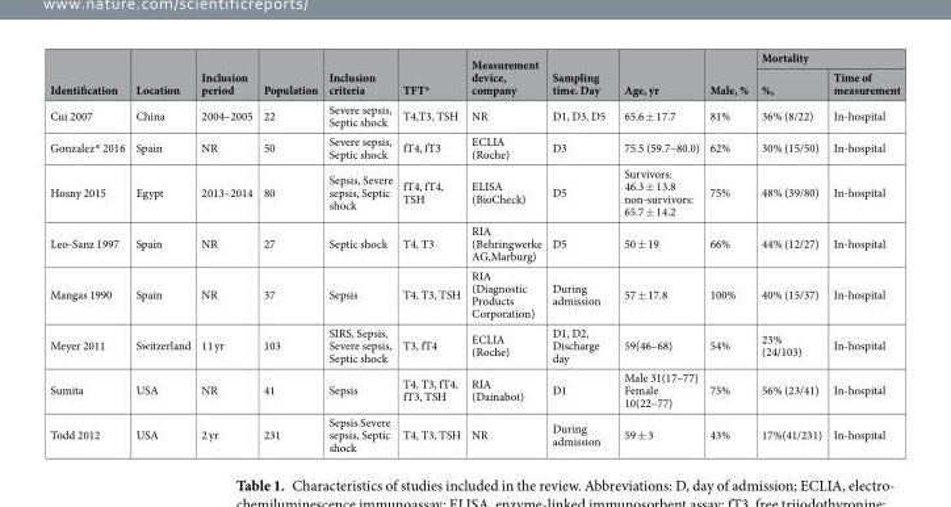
<table><thead><tr><td rowspan="2">Identification</td><td rowspan="2">Location</td><td rowspan="2">Inclusion period</td><td rowspan="2">Population</td><td rowspan="2">Inclusion criteria</td><td rowspan="2">TFT <sup>a</sup></td><td rowspan="2">Measurement device, company</td><td rowspan="2">Sampling time. Day</td><td rowspan="2">Age, yr</td><td rowspan="2">Male, %</td><td colspan="2">Mortality</td></tr><tr><td>%,</td><td>Time of measurement</td></tr></thead><tbody><tr><td>Cui 2007</td><td>China</td><td>2004–2005</td><td>22</td><td>Severe sepsis, Septic shock</td><td>T4,T3, TSH</td><td>NR</td><td>D1, D3, D5</td><td>65.6 ± 17.7</td><td>81%</td><td>36% (8/22)</td><td>In-hospital</td></tr><tr><td>Gonzalez* 2016</td><td>Spain</td><td>NR</td><td>50</td><td>Severe sepsis, Septic shock</td><td>fT4, fT3</td><td>ECLIA (Roche)</td><td>D3</td><td>75.5 (59.7–80.0)</td><td>62%</td><td>30% (15/50)</td><td>In-hospital</td></tr><tr><td>Hosny 2015</td><td>Egypt</td><td>2013–2014</td><td>80</td><td>Sepsis, Severe sepsis, Septic shock</td><td>fT4, fT4, TSH</td><td>ELISA (BioCheck)</td><td>D5</td><td>Survivors: 46.3 ± 13.8 non-survivors: 65.7 ± 14.2</td><td>75%</td><td>48% (39/80)</td><td>In-hospital</td></tr><tr><td>Leo-Sanz 1997</td><td>Spain</td><td>NR</td><td>27</td><td>Septic shock</td><td>T4, T3</td><td>RIA (Behringwerke AG,Marburg)</td><td>D5</td><td>50 ± 19</td><td>66%</td><td>44% (12/27)</td><td>In-hospital</td></tr><tr><td>Mangas 1990</td><td>Spain</td><td>NR</td><td>37</td><td>Sepsis</td><td>T4, T3, TSH</td><td>RIA (Diagnostic Products Corporation)</td><td>During admission</td><td>57 ± 17.8</td><td>100%</td><td>40% (15/37)</td><td>In-hospital</td></tr><tr><td>Meyer 2011</td><td>Switzerland</td><td>11 yr</td><td>103</td><td>SIRS, Sepsis, Severe sepsis, Septic shock</td><td>T3, fT4</td><td>ECLIA (Roche)</td><td>D1, D2, Discharge day</td><td>59(46–68)</td><td>54%</td><td>23% (24/103)</td><td>In-hospital</td></tr><tr><td>Sumita</td><td>USA</td><td>NR</td><td>41</td><td>Sepsis</td><td>T4, T3, fT4, fT3, TSH</td><td>RIA (Dainabot)</td><td>D1</td><td>Male 31(17–77) Female 10(22–77)</td><td>75%</td><td>56% (23/41)</td><td>In-hospital</td></tr><tr><td>Todd 2012</td><td>USA</td><td>2 yr</td><td>231</td><td>Sepsis Severe sepsis, Septic shock</td><td>T4, T3, TSH</td><td>NR</td><td>During admission</td><td>59 ± 3</td><td>43%</td><td>17%(41/231)</td><td>In-hospital</td></tr></tbody></table>